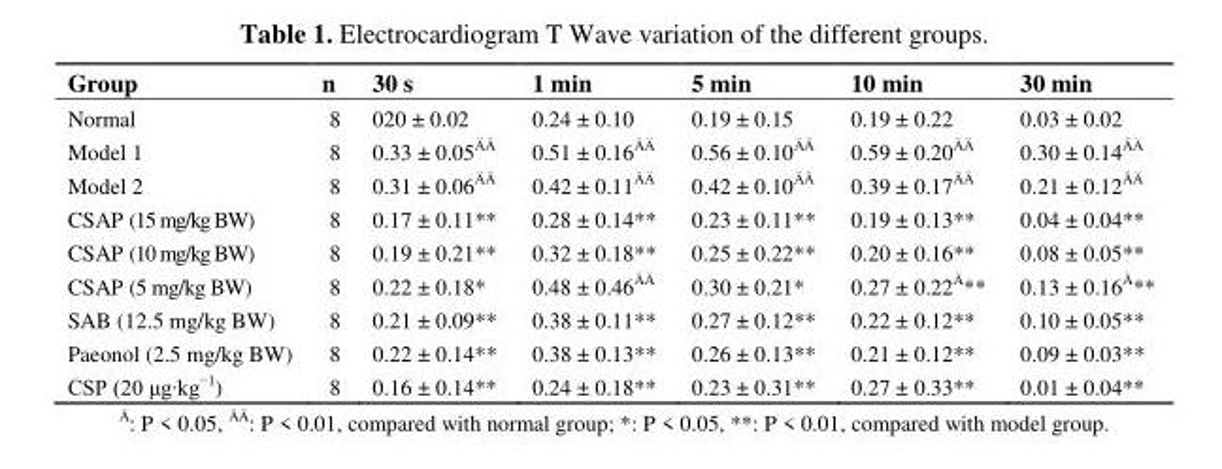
<table><thead><tr><td>Group</td><td>n</td><td>30 s</td><td>1 min</td><td>5 min</td><td>10 min</td><td>30 min</td></tr></thead><tbody><tr><td>Normal</td><td>8</td><td>020 ± 0.02</td><td>0.24 ± 0.10</td><td>0.19 ± 0.15</td><td>0.19 ± 0.22</td><td>0.03 ± 0.02</td></tr><tr><td>Model 1</td><td>8</td><td>0.33 ± 0.05ÄÄ</td><td>0.51 ± 0.16ÄÄ</td><td>0.56 ± 0.10ÄÄ</td><td>0.59 ± 0.20ÄÄ</td><td>0.30 ± 0.14ÄÄ</td></tr><tr><td>Model 2</td><td>8</td><td>0.31 ± 0.06ÄÄ</td><td>0.42 ± 0.11ÄÄ</td><td>0.42 ± 0.10ÄÄ</td><td>0.39 ± 0.17ÄÄ</td><td>0.21 ± 0.12ÄÄ</td></tr><tr><td>CSAP (15 mg/kg BW)</td><td>8</td><td>0.17 ± 0.11**</td><td>0.28 ± 0.14**</td><td>0.23 ± 0.11**</td><td>0.19 ± 0.13**</td><td>0.04 ± 0.04**</td></tr><tr><td>CSAP (10 mg/kg BW)</td><td>8</td><td>0.19 ± 0.21**</td><td>0.32 ± 0.18**</td><td>0.25 ± 0.22**</td><td>0.20 ± 0.16**</td><td>0.08 ± 0.05**</td></tr><tr><td>CSAP (5 mg/kg BW)</td><td>8</td><td>0.22 ± 0.18*</td><td>0.48 ± 0.46ÄÄ</td><td>0.30 ± 0.21*</td><td>0.27 ± 0.22Ä**</td><td>0.13 ± 0.16Ä**</td></tr><tr><td>SAB (12.5 mg/kg BW)</td><td>8</td><td>0.21 ± 0.09**</td><td>0.38 ± 0.11**</td><td>0.27 ± 0.12**</td><td>0.22 ± 0.12**</td><td>0.10 ± 0.05**</td></tr><tr><td>Paeonol (2.5 mg/kg BW)</td><td>8</td><td>0.22 ± 0.14**</td><td>0.38 ± 0.13**</td><td>0.26 ± 0.13**</td><td>0.21 ± 0.12**</td><td>0.09 ± 0.03**</td></tr><tr><td>CSP (20 μg·kg<sup>−1</sup>)</td><td>8</td><td>0.16 ± 0.14**</td><td>0.24 ± 0.18**</td><td>0.23 ± 0.31**</td><td>0.27 ± 0.33**</td><td>0.01 ± 0.04**</td></tr></tbody></table>